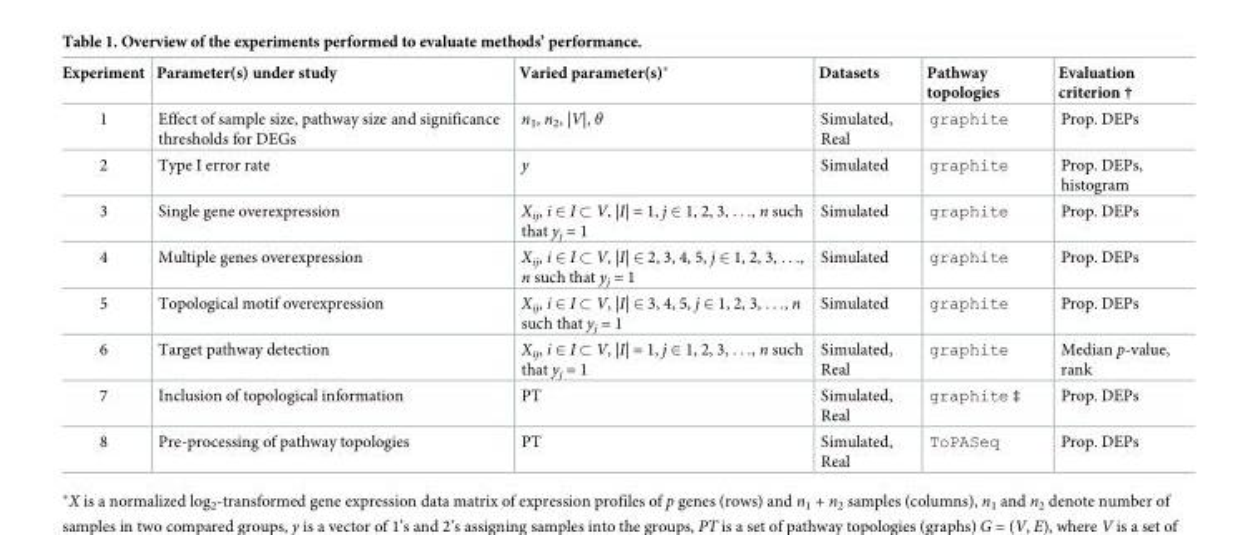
<table><thead><tr><td>Experiment</td><td>Parameter(s) under study</td><td>Varied parameter(s)*</td><td>Datasets</td><td>Pathway topologies</td><td>Evaluation criterion †</td></tr></thead><tbody><tr><td>1</td><td>Effect of sample size, pathway size and significance thresholds for DEGs</td><td>n<sub>1</sub>, n<sub>2</sub>, |V|, θ</td><td>Simulated, Real</td><td>graphite</td><td>Prop. DEPs</td></tr><tr><td>2</td><td>Type I error rate</td><td>y</td><td>Simulated</td><td>graphite</td><td>Prop. DEPs, histogram</td></tr><tr><td>3</td><td>Single gene overexpression</td><td>Xij, i 2 I � V, |I| = 1, j 2 1, 2, 3, . . ., n such that yj = 1</td><td>Simulated</td><td>graphite</td><td>Prop. DEPs</td></tr><tr><td>4</td><td>Multiple genes overexpression</td><td>Xij, i 2 I � V, |I| 2 2, 3, 4, 5, j 2 1, 2, 3, . . ., n such that yj = 1</td><td>Simulated</td><td>graphite</td><td>Prop. DEPs</td></tr><tr><td>5</td><td>Topological motif overexpression</td><td>Xij, i 2 I � V, |I| 2 3, 4, 5, j 2 1, 2, 3, . . ., n such that yj = 1</td><td>Simulated</td><td>graphite</td><td>Prop. DEPs</td></tr><tr><td>6</td><td>Target pathway detection</td><td>Xij, i 2 I � V, |I| = 1, j 2 1, 2, 3, . . ., n such that yj = 1</td><td>Simulated, Real</td><td>graphite</td><td>Median p-value, rank</td></tr><tr><td>7</td><td>Inclusion of topological information</td><td>PT</td><td>Simulated, Real</td><td>graphite ‡</td><td>Prop. DEPs</td></tr><tr><td>8</td><td>Pre-processing of pathway topologies</td><td>PT</td><td>Simulated, Real</td><td>ToPASeq</td><td>Prop. DEPs</td></tr></tbody></table>